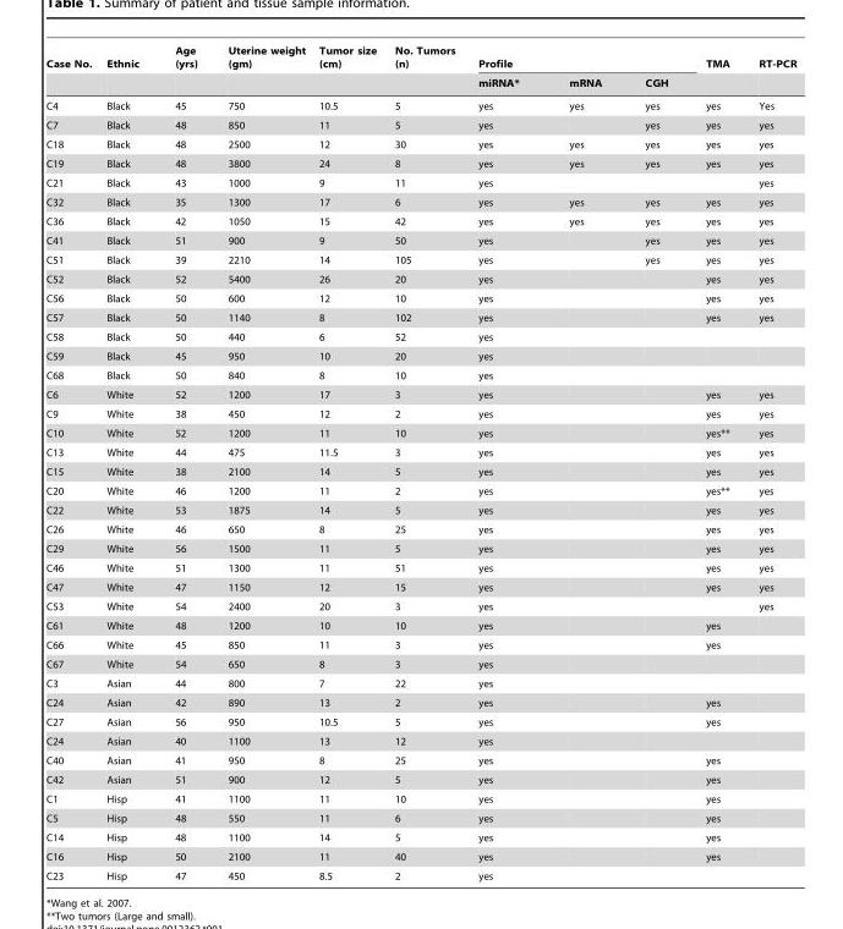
<table><thead><tr><td rowspan="2">Case No.</td><td rowspan="2">Ethnic</td><td rowspan="2">Age (yrs)</td><td rowspan="2">Uterine weight (gm)</td><td rowspan="2">Tumor size (cm)</td><td rowspan="2">No. Tumors (n)</td><td colspan="3">Profile</td><td rowspan="2">TMA</td><td rowspan="2">RT-PCR</td></tr><tr><td>miRNA*</td><td>mRNA</td><td>CGH</td></tr></thead><tbody><tr><td>C4</td><td>Black</td><td>45</td><td>750</td><td>10.5</td><td>5</td><td>yes</td><td>yes</td><td>yes</td><td>yes</td><td>Yes</td></tr><tr><td>C7</td><td>Black</td><td>48</td><td>850</td><td>11</td><td>5</td><td>yes</td><td></td><td>yes</td><td>yes</td><td>yes</td></tr><tr><td>C18</td><td>Black</td><td>48</td><td>2500</td><td>12</td><td>30</td><td>yes</td><td>yes</td><td>yes</td><td>yes</td><td>yes</td></tr><tr><td>C19</td><td>Black</td><td>48</td><td>3800</td><td>24</td><td>8</td><td>yes</td><td>yes</td><td>yes</td><td>yes</td><td>yes</td></tr><tr><td>C21</td><td>Black</td><td>43</td><td>1000</td><td>9</td><td>11</td><td>yes</td><td></td><td></td><td></td><td>yes</td></tr><tr><td>C32</td><td>Black</td><td>35</td><td>1300</td><td>17</td><td>6</td><td>yes</td><td>yes</td><td>yes</td><td>yes</td><td>yes</td></tr><tr><td>C36</td><td>Black</td><td>42</td><td>1050</td><td>15</td><td>42</td><td>yes</td><td>yes</td><td>yes</td><td>yes</td><td>yes</td></tr><tr><td>C41</td><td>Black</td><td>51</td><td>900</td><td>9</td><td>50</td><td>yes</td><td></td><td>yes</td><td>yes</td><td>yes</td></tr><tr><td>C51</td><td>Black</td><td>39</td><td>2210</td><td>14</td><td>105</td><td>yes</td><td></td><td>yes</td><td>yes</td><td>yes</td></tr><tr><td>C52</td><td>Black</td><td>52</td><td>5400</td><td>26</td><td>20</td><td>yes</td><td></td><td></td><td>yes</td><td>yes</td></tr><tr><td>C56</td><td>Black</td><td>50</td><td>600</td><td>12</td><td>10</td><td>yes</td><td></td><td></td><td>yes</td><td>yes</td></tr><tr><td>C57</td><td>Black</td><td>50</td><td>1140</td><td>8</td><td>102</td><td>yes</td><td></td><td></td><td>yes</td><td>yes</td></tr><tr><td>C58</td><td>Black</td><td>50</td><td>440</td><td>6</td><td>52</td><td>yes</td><td></td><td></td><td></td><td></td></tr><tr><td>C59</td><td>Black</td><td>45</td><td>950</td><td>10</td><td>20</td><td>yes</td><td></td><td></td><td></td><td></td></tr><tr><td>C68</td><td>Black</td><td>50</td><td>840</td><td>8</td><td>10</td><td>yes</td><td></td><td></td><td></td><td></td></tr><tr><td>C6</td><td>White</td><td>52</td><td>1200</td><td>17</td><td>3</td><td>yes</td><td></td><td></td><td>yes</td><td>yes</td></tr><tr><td>C9</td><td>White</td><td>38</td><td>450</td><td>12</td><td>2</td><td>yes</td><td></td><td></td><td>yes</td><td>yes</td></tr><tr><td>C10</td><td>White</td><td>52</td><td>1200</td><td>11</td><td>10</td><td>yes</td><td></td><td></td><td>yes**</td><td>yes</td></tr><tr><td>C13</td><td>White</td><td>44</td><td>475</td><td>11.5</td><td>3</td><td>yes</td><td></td><td></td><td>yes</td><td>yes</td></tr><tr><td>C15</td><td>White</td><td>38</td><td>2100</td><td>14</td><td>5</td><td>yes</td><td></td><td></td><td>yes</td><td>yes</td></tr><tr><td>C20</td><td>White</td><td>46</td><td>1200</td><td>11</td><td>2</td><td>yes</td><td></td><td></td><td>yes**</td><td>yes</td></tr><tr><td>C22</td><td>White</td><td>53</td><td>1875</td><td>14</td><td>5</td><td>yes</td><td></td><td></td><td>yes</td><td>yes</td></tr><tr><td>C26</td><td>White</td><td>46</td><td>650</td><td>8</td><td>25</td><td>yes</td><td></td><td></td><td>yes</td><td>yes</td></tr><tr><td>C29</td><td>White</td><td>56</td><td>1500</td><td>11</td><td>5</td><td>yes</td><td></td><td></td><td>yes</td><td>yes</td></tr><tr><td>C46</td><td>White</td><td>51</td><td>1300</td><td>11</td><td>51</td><td>yes</td><td></td><td></td><td>yes</td><td>yes</td></tr><tr><td>C47</td><td>White</td><td>47</td><td>1150</td><td>12</td><td>15</td><td>yes</td><td></td><td></td><td>yes</td><td>yes</td></tr><tr><td>C53</td><td>White</td><td>54</td><td>2400</td><td>20</td><td>3</td><td>yes</td><td></td><td></td><td></td><td>yes</td></tr><tr><td>C61</td><td>White</td><td>48</td><td>1200</td><td>10</td><td>10</td><td>yes</td><td></td><td></td><td>yes</td><td></td></tr><tr><td>C66</td><td>White</td><td>45</td><td>850</td><td>11</td><td>3</td><td>yes</td><td></td><td></td><td>yes</td><td></td></tr><tr><td>C67</td><td>White</td><td>54</td><td>650</td><td>8</td><td>3</td><td>yes</td><td></td><td></td><td></td><td></td></tr><tr><td>C3</td><td>Asian</td><td>44</td><td>800</td><td>7</td><td>22</td><td>yes</td><td></td><td></td><td></td><td></td></tr><tr><td>C24</td><td>Asian</td><td>42</td><td>890</td><td>13</td><td>2</td><td>yes</td><td></td><td></td><td>yes</td><td></td></tr><tr><td>C27</td><td>Asian</td><td>56</td><td>950</td><td>10.5</td><td>5</td><td>yes</td><td></td><td></td><td>yes</td><td></td></tr><tr><td>C24</td><td>Asian</td><td>40</td><td>1100</td><td>13</td><td>12</td><td>yes</td><td></td><td></td><td></td><td></td></tr><tr><td>C40</td><td>Asian</td><td>41</td><td>950</td><td>8</td><td>25</td><td>yes</td><td></td><td></td><td>yes</td><td></td></tr><tr><td>C42</td><td>Asian</td><td>51</td><td>900</td><td>12</td><td>5</td><td>yes</td><td></td><td></td><td>yes</td><td></td></tr><tr><td>C1</td><td>Hisp</td><td>41</td><td>1100</td><td>11</td><td>10</td><td>yes</td><td></td><td></td><td>yes</td><td></td></tr><tr><td>C5</td><td>Hisp</td><td>48</td><td>550</td><td>11</td><td>6</td><td>yes</td><td></td><td></td><td>yes</td><td></td></tr><tr><td>C14</td><td>Hisp</td><td>48</td><td>1100</td><td>14</td><td>5</td><td>yes</td><td></td><td></td><td>yes</td><td></td></tr><tr><td>C16</td><td>Hisp</td><td>50</td><td>2100</td><td>11</td><td>40</td><td>yes</td><td></td><td></td><td>yes</td><td></td></tr><tr><td>C23</td><td>Hisp</td><td>47</td><td>450</td><td>8.5</td><td>2</td><td>yes</td><td></td><td></td><td></td><td></td></tr></tbody></table>